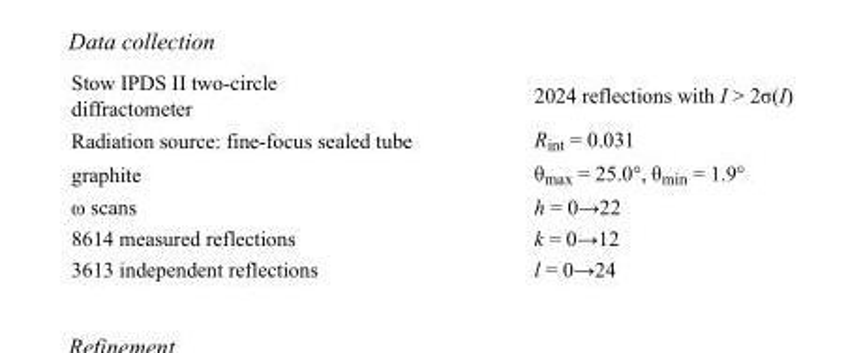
<table><tbody><tr><td>Stow IPDS II two-circle diffractometer</td><td>2024 reflections with I &gt; 2σ(I)</td></tr><tr><td>Radiation source: fine-focus sealed tube</td><td>R<sub>int</sub> = 0.031</td></tr><tr><td>graphite</td><td>θ<sub>max</sub> = 25.0°, θ<sub>min</sub> = 1.9°</td></tr><tr><td>ω scans</td><td>h = 0→22</td></tr><tr><td>8614 measured reflections</td><td>k = 0→12</td></tr><tr><td>3613 independent reflections</td><td>l = 0→24</td></tr></tbody></table>